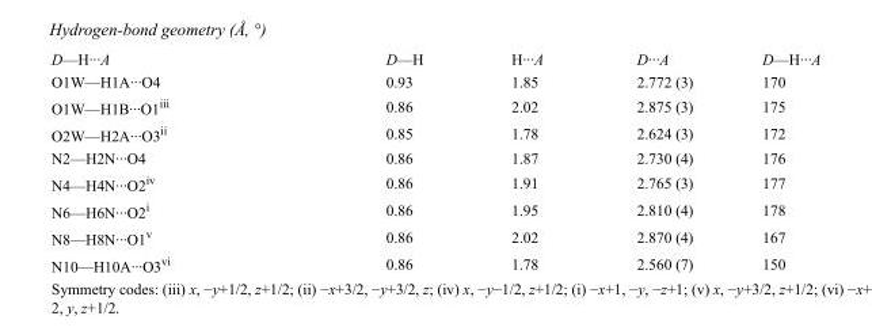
<table><tbody><tr><td>D—H···A</td><td>D—H</td><td>H···A</td><td>D···A</td><td>D—H···A</td></tr><tr><td>O1W—H1A···O4</td><td>0.93</td><td>1.85</td><td>2.772 (3)</td><td>170</td></tr><tr><td>O1W—H1B···O1<sup>iii</sup></td><td>0.86</td><td>2.02</td><td>2.875 (3)</td><td>175</td></tr><tr><td>O2W—H2A···O3<sup>ii</sup></td><td>0.85</td><td>1.78</td><td>2.624 (3)</td><td>172</td></tr><tr><td>N2—H2N···O4</td><td>0.86</td><td>1.87</td><td>2.730 (4)</td><td>176</td></tr><tr><td>N4—H4N···O2<sup>iv</sup></td><td>0.86</td><td>1.91</td><td>2.765 (3)</td><td>177</td></tr><tr><td>N6—H6N···O2<sup>i</sup></td><td>0.86</td><td>1.95</td><td>2.810 (4)</td><td>178</td></tr><tr><td>N8—H8N···O1<sup>v</sup></td><td>0.86</td><td>2.02</td><td>2.870 (4)</td><td>167</td></tr><tr><td>N10—H10A···O3<sup>vi</sup></td><td>0.86</td><td>1.78</td><td>2.560 (7)</td><td>150</td></tr></tbody></table>